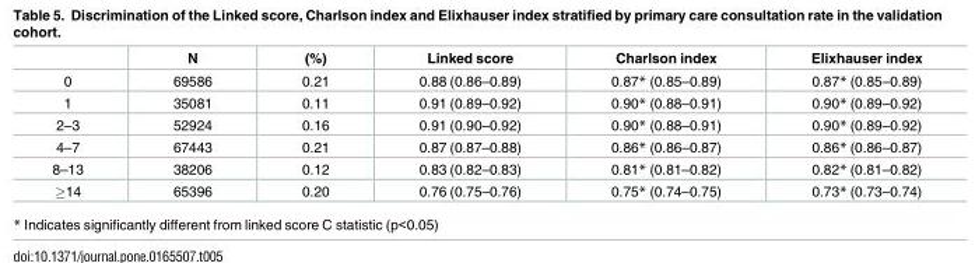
<table><thead><tr><td></td><td>N</td><td>(%)</td><td>Linked score</td><td>Charlson index</td><td>Elixhauser index</td></tr></thead><tbody><tr><td>0</td><td>69586</td><td>0.21</td><td>0.88 (0.86–0.89)</td><td>0.87* (0.85–0.89)</td><td>0.87* (0.85–0.89)</td></tr><tr><td>1</td><td>35081</td><td>0.11</td><td>0.91 (0.89–0.92)</td><td>0.90* (0.88–0.91)</td><td>0.90* (0.89–0.92)</td></tr><tr><td>2–3</td><td>52924</td><td>0.16</td><td>0.91 (0.90–0.92)</td><td>0.90* (0.88–0.91)</td><td>0.90* (0.89–0.92)</td></tr><tr><td>4–7</td><td>67443</td><td>0.21</td><td>0.87 (0.87–0.88)</td><td>0.86* (0.86–0.87)</td><td>0.86* (0.86–0.87)</td></tr><tr><td>8–13</td><td>38206</td><td>0.12</td><td>0.83 (0.82–0.83)</td><td>0.81* (0.81–0.82)</td><td>0.82* (0.81–0.82)</td></tr><tr><td>≥14</td><td>65396</td><td>0.20</td><td>0.76 (0.75–0.76)</td><td>0.75* (0.74–0.75)</td><td>0.73* (0.73–0.74)</td></tr></tbody></table>